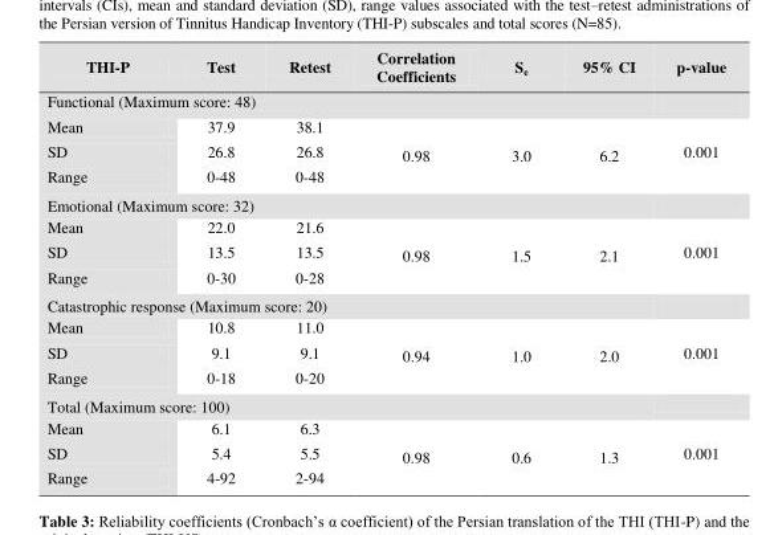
<table><thead><tr><td>THI-P</td><td>Test</td><td>Retest</td><td>Correlation Coefficients</td><td>S<sub>e</sub></td><td>95% CI</td><td>p-value</td></tr></thead><tbody><tr><td colspan="7">Functional (Maximum score: 48)</td></tr><tr><td>Mean</td><td>37.9</td><td>38.1</td><td rowspan="3">0.98</td><td rowspan="3">3.0</td><td rowspan="3">6.2</td><td></td></tr><tr><td>SD</td><td>26.8</td><td>26.8</td><td>0.001</td></tr><tr><td>Range</td><td>0-48</td><td>0-48</td><td></td></tr><tr><td colspan="7">Emotional (Maximum score: 32)</td></tr><tr><td>Mean</td><td>22.0</td><td>21.6</td><td rowspan="3">0.98</td><td rowspan="3">1.5</td><td rowspan="3">2.1</td><td></td></tr><tr><td>SD</td><td>13.5</td><td>13.5</td><td>0.001</td></tr><tr><td>Range</td><td>0-30</td><td>0-28</td><td></td></tr><tr><td colspan="7">Catastrophic response (Maximum score: 20)</td></tr><tr><td>Mean</td><td>10.8</td><td>11.0</td><td rowspan="3">0.94</td><td rowspan="3">1.0</td><td rowspan="3">2.0</td><td></td></tr><tr><td>SD</td><td>9.1</td><td>9.1</td><td>0.001</td></tr><tr><td>Range</td><td>0-18</td><td>0-20</td><td></td></tr><tr><td colspan="7">Total (Maximum score: 100)</td></tr><tr><td>Mean</td><td>6.1</td><td>6.3</td><td rowspan="3">0.98</td><td rowspan="3">0.6</td><td rowspan="3">1.3</td><td></td></tr><tr><td>SD</td><td>5.4</td><td>5.5</td><td>0.001</td></tr><tr><td>Range</td><td>4-92</td><td>2-94</td><td></td></tr></tbody></table>